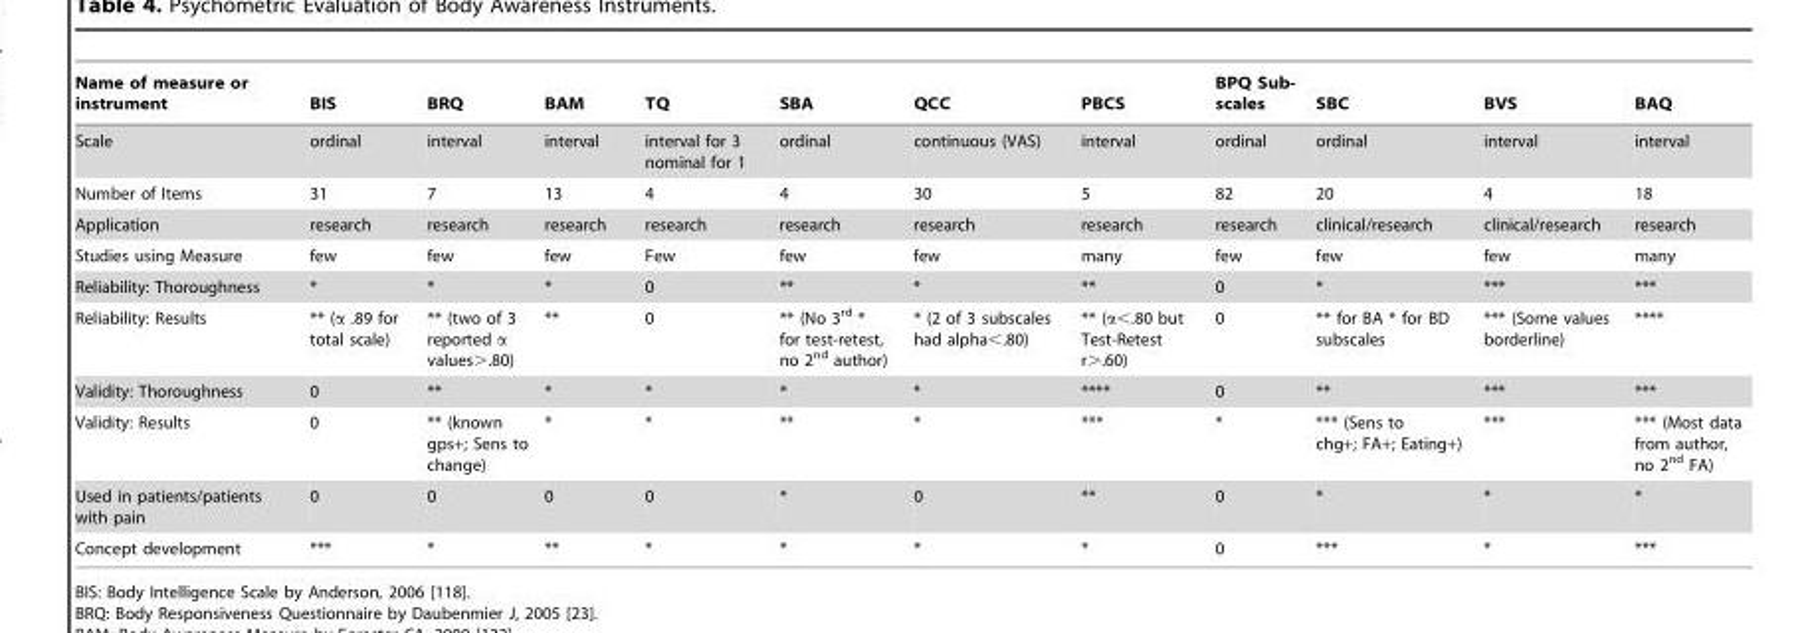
<table><thead><tr><td>Name of measure or instrument</td><td>BIS</td><td>BRQ</td><td>BAM</td><td>TQ</td><td>SBA</td><td>QCC</td><td>PBCS</td><td>BPQ Sub- scales</td><td>SBC</td><td>BVS</td><td>BAQ</td></tr></thead><tbody><tr><td>Scale</td><td>ordinal</td><td>interval</td><td>interval</td><td>interval for 3 nominal for 1</td><td>ordinal</td><td>continuous (VAS)</td><td>interval</td><td>ordinal</td><td>ordinal</td><td>interval</td><td>interval</td></tr><tr><td>Number of Items</td><td>31</td><td>7</td><td>13</td><td>4</td><td>4</td><td>30</td><td>5</td><td>82</td><td>20</td><td>4</td><td>18</td></tr><tr><td>Application</td><td>research</td><td>research</td><td>research</td><td>research</td><td>research</td><td>research</td><td>research</td><td>research</td><td>clinical/research</td><td>clinical/research</td><td>research</td></tr><tr><td>Studies using Measure</td><td>few</td><td>few</td><td>few</td><td>Few</td><td>few</td><td>few</td><td>many</td><td>few</td><td>few</td><td>few</td><td>many</td></tr><tr><td>Reliability: Thoroughness</td><td>*</td><td>*</td><td>*</td><td>0</td><td>**</td><td>*</td><td>**</td><td>0</td><td>*</td><td>***</td><td>***</td></tr><tr><td>Reliability: Results</td><td>** (α .89 for total scale)</td><td>** (two of 3 reported α values&gt;.80)</td><td>**</td><td>0</td><td>** (No 3<sup>rd</sup> * for test-retest, no 2<sup>nd</sup> author)</td><td>* (2 of 3 subscales had alpha&lt;.80)</td><td>** (α&lt;.80 but Test-Retest r&gt;.60)</td><td>0</td><td>** for BA * for BD subscales</td><td>*** (Some values borderline)</td><td>****</td></tr><tr><td>Validity: Thoroughness</td><td>0</td><td>**</td><td>*</td><td>*</td><td>*</td><td>*</td><td>****</td><td>0</td><td>**</td><td>***</td><td>***</td></tr><tr><td>Validity: Results</td><td>0</td><td>** (known gps+; Sens to change)</td><td>*</td><td>*</td><td>**</td><td>*</td><td>***</td><td>*</td><td>*** (Sens to chg+; FA+; Eating+)</td><td>***</td><td>*** (Most data from author, no 2<sup>nd</sup> FA)</td></tr><tr><td>Used in patients/patients with pain</td><td>0</td><td>0</td><td>0</td><td>0</td><td>*</td><td>0</td><td>**</td><td>0</td><td>*</td><td>*</td><td>*</td></tr><tr><td>Concept development</td><td>***</td><td>*</td><td>**</td><td>*</td><td>*</td><td>*</td><td>*</td><td>0</td><td>***</td><td>*</td><td>***</td></tr></tbody></table>